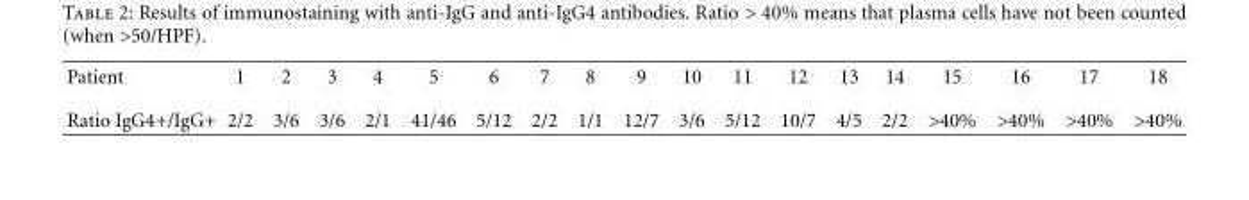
<table><tbody><tr><td>Patient</td><td>1</td><td>2</td><td>3</td><td>4</td><td>5</td><td>6</td><td>7</td><td>8</td><td>9</td><td>10</td><td>11</td><td>12</td><td>13</td><td>14</td><td>15</td><td>16</td><td>17</td><td>18</td></tr><tr><td>Ratio IgG4+/IgG+</td><td>2/2</td><td>3/6</td><td>3/6</td><td>2/1</td><td>41/46</td><td>5/12</td><td>2/2</td><td>1/1</td><td>12/7</td><td>3/6</td><td>5/12</td><td>10/7</td><td>4/5</td><td>2/2</td><td>&gt;40%</td><td>&gt;40%</td><td>&gt;40%</td><td>&gt;40%</td></tr></tbody></table>